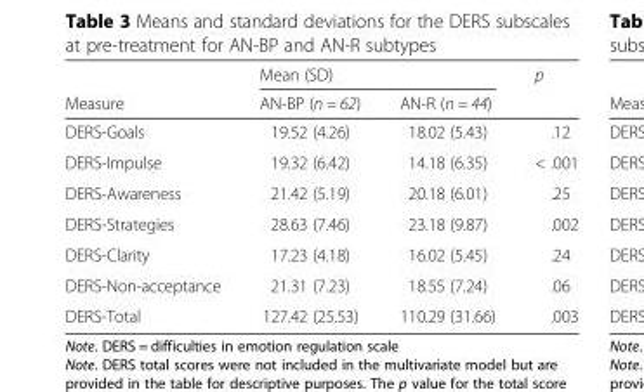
<table><thead><tr><td rowspan="2">Measure</td><td colspan="2">Mean (SD)</td><td rowspan="2">p</td></tr><tr><td>AN-BP (n = 62)</td><td>AN-R (n = 44)</td></tr></thead><tbody><tr><td>DERS-Goals</td><td>19.52 (4.26)</td><td>18.02 (5.43)</td><td>.12</td></tr><tr><td>DERS-Impulse</td><td>19.32 (6.42)</td><td>14.18 (6.35)</td><td>&lt; .001</td></tr><tr><td>DERS-Awareness</td><td>21.42 (5.19)</td><td>20.18 (6.01)</td><td>.25</td></tr><tr><td>DERS-Strategies</td><td>28.63 (7.46)</td><td>23.18 (9.87)</td><td>.002</td></tr><tr><td>DERS-Clarity</td><td>17.23 (4.18)</td><td>16.02 (5.45)</td><td>.24</td></tr><tr><td>DERS-Non-acceptance</td><td>21.31 (7.23)</td><td>18.55 (7.24)</td><td>.06</td></tr><tr><td>DERS-Total</td><td>127.42 (25.53)</td><td>110.29 (31.66)</td><td>.003</td></tr></tbody></table>